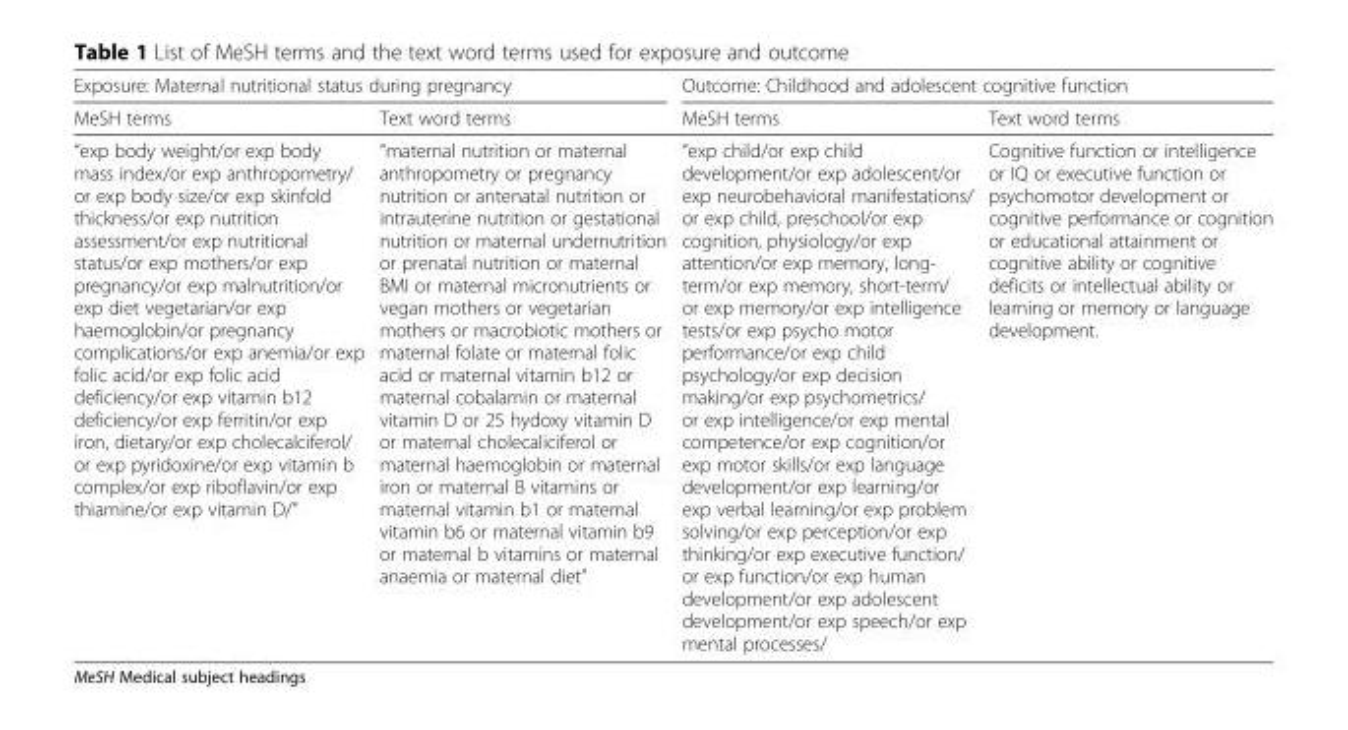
<table><thead><tr><td colspan="2">Exposure: Maternal nutritional status during pregnancy</td><td colspan="2">Outcome: Childhood and adolescent cognitive function</td></tr><tr><td>MeSH terms</td><td>Text word terms</td><td>MeSH terms</td><td>Text word terms</td></tr></thead><tbody><tr><td>“exp body weight/or exp body mass index/or exp anthropometry/ or exp body size/or exp skinfold thickness/or exp nutrition assessment/or exp nutritional status/or exp mothers/or exp pregnancy/or exp malnutrition/or exp diet vegetarian/or exp haemoglobin/or pregnancy complications/or exp anemia/or exp folic acid/or exp folic acid deficiency/or exp vitamin b12 deficiency/or exp ferritin/or exp iron, dietary/or exp cholecalciferol/ or exp pyridoxine/or exp vitamin b complex/or exp riboflavin/or exp thiamine/or exp vitamin D/”</td><td>“maternal nutrition or maternal anthropometry or pregnancy nutrition or antenatal nutrition or intrauterine nutrition or gestational nutrition or maternal undernutrition or prenatal nutrition or maternal BMI or maternal micronutrients or vegan mothers or vegetarian mothers or macrobiotic mothers or maternal folate or maternal folic acid or maternal vitamin b12 or maternal cobalamin or maternal vitamin D or 25 hydoxy vitamin D or maternal cholecaliciferol or maternal haemoglobin or maternal iron or maternal B vitamins or maternal vitamin b1 or maternal vitamin b6 or maternal vitamin b9 or maternal b vitamins or maternal anaemia or maternal diet”</td><td>“exp child/or exp child development/or exp adolescent/or exp neurobehavioral manifestations/ or exp child, preschool/or exp cognition, physiology/or exp attention/or exp memory, long- term/or exp memory, short-term/ or exp memory/or exp intelligence tests/or exp psycho motor performance/or exp child psychology/or exp decision making/or exp psychometrics/ or exp intelligence/or exp mental competence/or exp cognition/or exp motor skills/or exp language development/or exp learning/or exp verbal learning/or exp problem solving/or exp perception/or exp thinking/or exp executive function/ or exp function/or exp human development/or exp adolescent development/or exp speech/or exp mental processes/</td><td>Cognitive function or intelligence or IQ or executive function or psychomotor development or cognitive performance or cognition or educational attainment or cognitive ability or cognitive deficits or intellectual ability or learning or memory or language development.</td></tr></tbody></table>